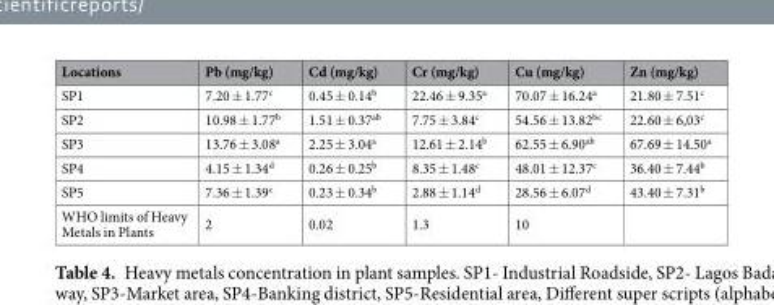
<table><thead><tr><td>Locations</td><td>Pb (mg/kg)</td><td>Cd (mg/kg)</td><td>Cr (mg/kg)</td><td>Cu (mg/kg)</td><td>Zn (mg/kg)</td></tr></thead><tbody><tr><td>SP1</td><td>7.20 ± 1.77<sup>c</sup></td><td>0.45 ± 0.14<sup>b</sup></td><td>22.46 ± 9.35<sup>a</sup></td><td>70.07 ± 16.24<sup>a</sup></td><td>21.80 ± 7.51<sup>c</sup></td></tr><tr><td>SP2</td><td>10.98 ± 1.77<sup>b</sup></td><td>1.51 ± 0.37<sup>ab</sup></td><td>7.75 ± 3.84<sup>c</sup></td><td>54.56 ± 13.82<sup>bc</sup></td><td>22.60 ± 6,03<sup>c</sup></td></tr><tr><td>SP3</td><td>13.76 ± 3.08<sup>a</sup></td><td>2.25 ± 3.04<sup>a</sup></td><td>12.61 ± 2.14<sup>b</sup></td><td>62.55 ± 6.90<sup>ab</sup></td><td>67.69 ± 14.50<sup>a</sup></td></tr><tr><td>SP4</td><td>4.15 ± 1.34<sup>d</sup></td><td>0.26 ± 0.25<sup>b</sup></td><td>8.35 ± 1.48<sup>c</sup></td><td>48.01 ± 12.37<sup>c</sup></td><td>36.40 ± 7.44<sup>b</sup></td></tr><tr><td>SP5</td><td>7.36 ± 1.39<sup>c</sup></td><td>0.23 ± 0.34<sup>b</sup></td><td>2.88 ± 1.14<sup>d</sup></td><td>28.56 ± 6.07<sup>d</sup></td><td>43.40 ± 7.31<sup>b</sup></td></tr><tr><td>WHO limits of Heavy Metals in Plants</td><td>2</td><td>0.02</td><td>1.3</td><td>10</td><td></td></tr></tbody></table>